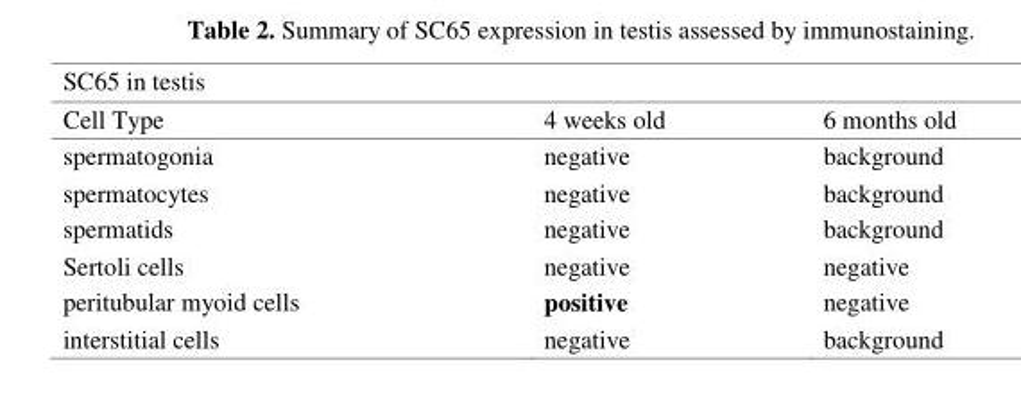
<table><thead><tr><td colspan="3">SC65 in testis</td></tr><tr><td>Cell Type</td><td>4 weeks old</td><td>6 months old</td></tr></thead><tbody><tr><td>spermatogonia</td><td>negative</td><td>background</td></tr><tr><td>spermatocytes</td><td>negative</td><td>background</td></tr><tr><td>spermatids</td><td>negative</td><td>background</td></tr><tr><td>Sertoli cells</td><td>negative</td><td>negative</td></tr><tr><td>peritubular myoid cells</td><td>positive</td><td>negative</td></tr><tr><td>interstitial cells</td><td>negative</td><td>background</td></tr></tbody></table>